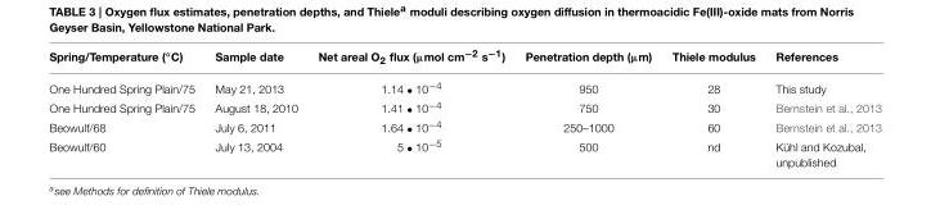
<table><thead><tr><td>Spring/Temperature (◦C)</td><td>Sample date</td><td>Net areal O<sub>2</sub> flux (µmol cm<sup>−2</sup> s<sup>−1</sup>)</td><td>Penetration depth (µm)</td><td>Thiele modulus</td><td>References</td></tr></thead><tbody><tr><td>One Hundred Spring Plain/75</td><td>May 21, 2013</td><td>1.14 • 10<sup>−4</sup></td><td>950</td><td>28</td><td>This study</td></tr><tr><td>One Hundred Spring Plain/75</td><td>August 18, 2010</td><td>1.41 • 10<sup>−4</sup></td><td>750</td><td>30</td><td>Bernstein et al., 2013</td></tr><tr><td>Beowulf/68</td><td>July 6, 2011</td><td>1.64 • 10<sup>−4</sup></td><td>250–1000</td><td>60</td><td>Bernstein et al., 2013</td></tr><tr><td>Beowulf/60</td><td>July 13, 2004</td><td>5 • 10<sup>−5</sup></td><td>500</td><td>nd</td><td>Kühl and Kozubal, unpublished</td></tr></tbody></table>